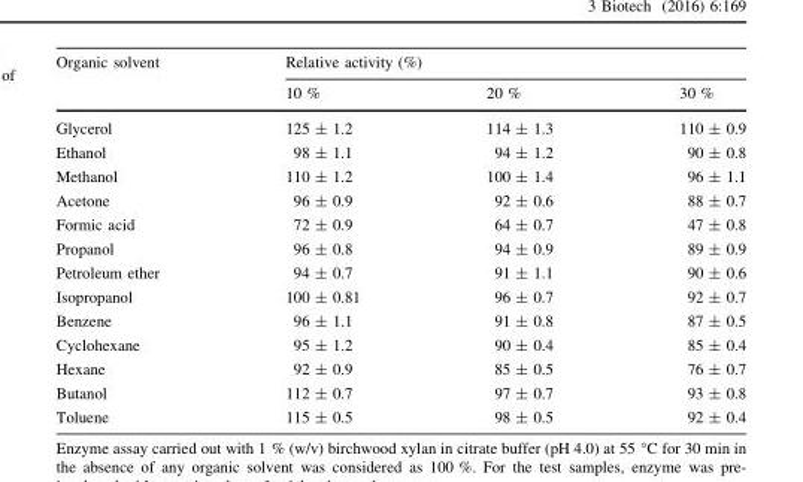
<table><thead><tr><td rowspan="2">Organic solvent</td><td colspan="3">Relative activity (%)</td></tr><tr><td>10 %</td><td>20 %</td><td>30 %</td></tr></thead><tbody><tr><td>Glycerol</td><td>125 ± 1.2</td><td>114 ± 1.3</td><td>110 ± 0.9</td></tr><tr><td>Ethanol</td><td>98 ± 1.1</td><td>94 ± 1.2</td><td>90 ± 0.8</td></tr><tr><td>Methanol</td><td>110 ± 1.2</td><td>100 ± 1.4</td><td>96 ± 1.1</td></tr><tr><td>Acetone</td><td>96 ± 0.9</td><td>92 ± 0.6</td><td>88 ± 0.7</td></tr><tr><td>Formic acid</td><td>72 ± 0.9</td><td>64 ± 0.7</td><td>47 ± 0.8</td></tr><tr><td>Propanol</td><td>96 ± 0.8</td><td>94 ± 0.9</td><td>89 ± 0.9</td></tr><tr><td>Petroleum ether</td><td>94 ± 0.7</td><td>91 ± 1.1</td><td>90 ± 0.6</td></tr><tr><td>Isopropanol</td><td>100 ± 0.81</td><td>96 ± 0.7</td><td>92 ± 0.7</td></tr><tr><td>Benzene</td><td>96 ± 1.1</td><td>91 ± 0.8</td><td>87 ± 0.5</td></tr><tr><td>Cyclohexane</td><td>95 ± 1.2</td><td>90 ± 0.4</td><td>85 ± 0.4</td></tr><tr><td>Hexane</td><td>92 ± 0.9</td><td>85 ± 0.5</td><td>76 ± 0.7</td></tr><tr><td>Butanol</td><td>112 ± 0.7</td><td>97 ± 0.7</td><td>93 ± 0.8</td></tr><tr><td>Toluene</td><td>115 ± 0.5</td><td>98 ± 0.5</td><td>92 ± 0.4</td></tr></tbody></table>